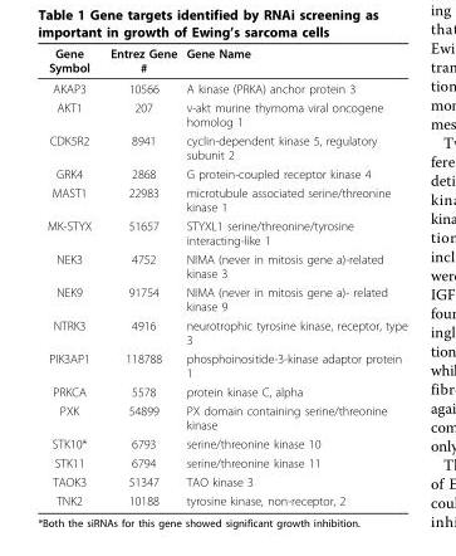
<table><thead><tr><td>Gene Symbol</td><td>Entrez Gene #</td><td>Gene Name</td></tr></thead><tbody><tr><td>AKAP3</td><td>10566</td><td>A kinase (PRKA) anchor protein 3</td></tr><tr><td>AKT1</td><td>207</td><td>v-akt murine thymoma viral oncogene homolog 1</td></tr><tr><td>CDK5R2</td><td>8941</td><td>cyclin-dependent kinase 5, regulatory subunit 2</td></tr><tr><td>GRK4</td><td>2868</td><td>G protein-coupled receptor kinase 4</td></tr><tr><td>MAST1</td><td>22983</td><td>microtubule associated serine/threonine kinase 1</td></tr><tr><td>MK-STYX</td><td>51657</td><td>STYXL1 serine/threonine/tyrosine interacting-like 1</td></tr><tr><td>NEK3</td><td>4752</td><td>NIMA (never in mitosis gene a)-related kinase 3</td></tr><tr><td>NEK9</td><td>91754</td><td>NIMA (never in mitosis gene a)- related kinase 9</td></tr><tr><td>NTRK3</td><td>4916</td><td>neurotrophic tyrosine kinase, receptor, type 3</td></tr><tr><td>PIK3AP1</td><td>118788</td><td>phosphoinositide-3-kinase adaptor protein 1</td></tr><tr><td>PRKCA</td><td>5578</td><td>protein kinase C, alpha</td></tr><tr><td>PXK</td><td>54899</td><td>PX domain containing serine/threonine kinase</td></tr><tr><td>STK10*</td><td>6793</td><td>serine/threonine kinase 10</td></tr><tr><td>STK11</td><td>6794</td><td>serine/threonine kinase 11</td></tr><tr><td>TAOK3</td><td>51347</td><td>TAO kinase 3</td></tr><tr><td>TNK2</td><td>10188</td><td>tyrosine kinase, non-receptor, 2</td></tr></tbody></table>